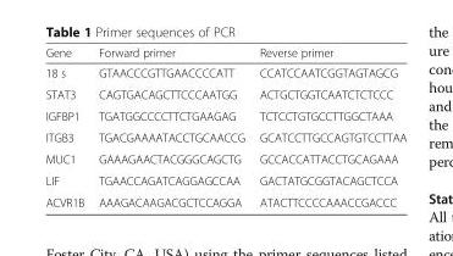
<table><thead><tr><td>Gene</td><td>Forward primer</td><td>Reverse primer</td></tr></thead><tbody><tr><td>18 s</td><td>GTAACCCGTTGAACCCCATT</td><td>CCATCCAATCGGTAGTAGCG</td></tr><tr><td>STAT3</td><td>CAGTGACAGCTTCCCAATGG</td><td>ACTGCTGGTCAATCTCTCCC</td></tr><tr><td>IGFBP1</td><td>TGATGGCCCCTTCTGAAGAG</td><td>TCTCCTGTGCCTTGGCTAAA</td></tr><tr><td>ITGB3</td><td>TGACGAAAATACCTGCAACCG</td><td>GCATCCTTGCCAGTGTCCTTAA</td></tr><tr><td>MUC1</td><td>GAAAGAACTACGGGCAGCTG</td><td>GCCACCATTACCTGCAGAAA</td></tr><tr><td>LIF</td><td>TGAACCAGATCAGGAGCCAA</td><td>GACTATGCGGTACAGCTCCA</td></tr><tr><td>ACVR1B</td><td>AAAGACAAGACGCTCCAGGA</td><td>ATACTTCCCCAAACCGACCC</td></tr></tbody></table>